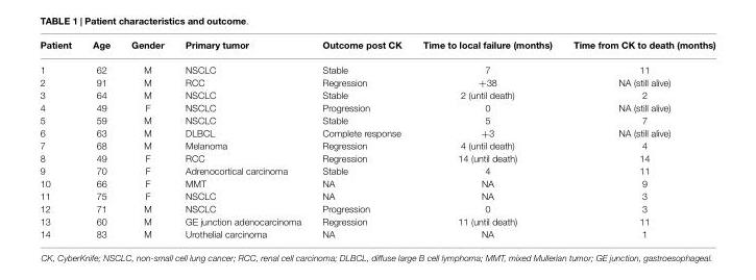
<table><thead><tr><td>Patient</td><td>Age</td><td>Gender</td><td>Primary tumor</td><td>Outcome post CK</td><td>Time to local failure (months)</td><td>Time from CK to death (months)</td></tr></thead><tbody><tr><td>1</td><td>62</td><td>M</td><td>NSCLC</td><td>Stable</td><td>7</td><td>11</td></tr><tr><td>2</td><td>91</td><td>M</td><td>RCC</td><td>Regression</td><td>+38</td><td>NA (still alive)</td></tr><tr><td>3</td><td>64</td><td>M</td><td>NSCLC</td><td>Stable</td><td>2 (until death)</td><td>2</td></tr><tr><td>4</td><td>49</td><td>F</td><td>NSCLC</td><td>Progression</td><td>0</td><td>NA (still alive)</td></tr><tr><td>5</td><td>59</td><td>M</td><td>NSCLC</td><td>Stable</td><td>5</td><td>7</td></tr><tr><td>6</td><td>63</td><td>M</td><td>DLBCL</td><td>Complete response</td><td>+3</td><td>NA (still alive)</td></tr><tr><td>7</td><td>68</td><td>M</td><td>Melanoma</td><td>Regression</td><td>4 (until death)</td><td>4</td></tr><tr><td>8</td><td>49</td><td>F</td><td>RCC</td><td>Regression</td><td>14 (until death)</td><td>14</td></tr><tr><td>9</td><td>70</td><td>F</td><td>Adrenocortical carcinoma</td><td>Stable</td><td>4</td><td>11</td></tr><tr><td>10</td><td>66</td><td>F</td><td>MMT</td><td>NA</td><td>NA</td><td>9</td></tr><tr><td>11</td><td>75</td><td>F</td><td>NSCLC</td><td>NA</td><td>NA</td><td>3</td></tr><tr><td>12</td><td>71</td><td>M</td><td>NSCLC</td><td>Progression</td><td>0</td><td>3</td></tr><tr><td>13</td><td>60</td><td>M</td><td>GE junction adenocarcinoma</td><td>Regression</td><td>11 (until death)</td><td>11</td></tr><tr><td>14</td><td>83</td><td>M</td><td>Urothelial carcinoma</td><td>NA</td><td>NA</td><td>1</td></tr></tbody></table>